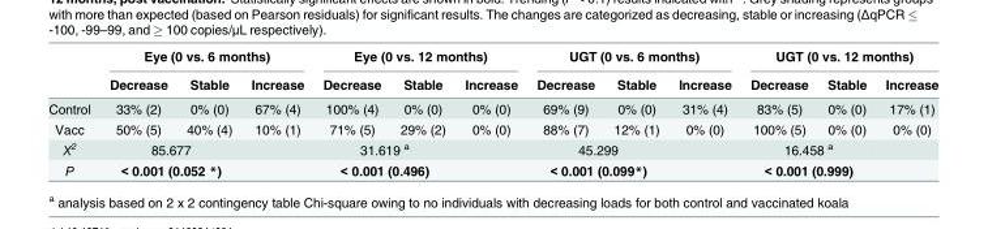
<table><thead><tr><td rowspan="2"></td><td colspan="3">Eye (0 vs. 6 months)</td><td colspan="3">Eye (0 vs. 12 months)</td><td colspan="3">UGT (0 vs. 6 months)</td><td colspan="3">UGT (0 vs. 12 months)</td></tr><tr><td>Decrease</td><td>Stable</td><td>Increase</td><td>Decrease</td><td>Stable</td><td>Increase</td><td>Decrease</td><td>Stable</td><td>Increase</td><td>Decrease</td><td>Stable</td><td>Increase</td></tr></thead><tbody><tr><td>Control</td><td>33% (2)</td><td>0% (0)</td><td>67% (4)</td><td>100% (4)</td><td>0% (0)</td><td>0% (0)</td><td>69% (9)</td><td>0% (0)</td><td>31% (4)</td><td>83% (5)</td><td>0% (0)</td><td>17% (1)</td></tr><tr><td>Vacc</td><td>50% (5)</td><td>40% (4)</td><td>10% (1)</td><td>71% (5)</td><td>29% (2)</td><td>0% (0)</td><td>88% (7)</td><td>12% (1)</td><td>0% (0)</td><td>100% (5)</td><td>0% (0)</td><td>0% (0)</td></tr><tr><td>X<sup>2</sup></td><td colspan="2">85.677</td><td></td><td colspan="2">31.619 <sup>a</sup></td><td></td><td colspan="2">45.299</td><td></td><td colspan="2">16.458 <sup>a</sup></td><td></td></tr><tr><td>P</td><td colspan="2">&lt; 0.001 (0.052 *)</td><td></td><td colspan="2">&lt; 0.001 (0.496)</td><td></td><td colspan="2">&lt; 0.001 (0.099*)</td><td></td><td colspan="2">&lt; 0.001 (0.999)</td><td></td></tr></tbody></table>